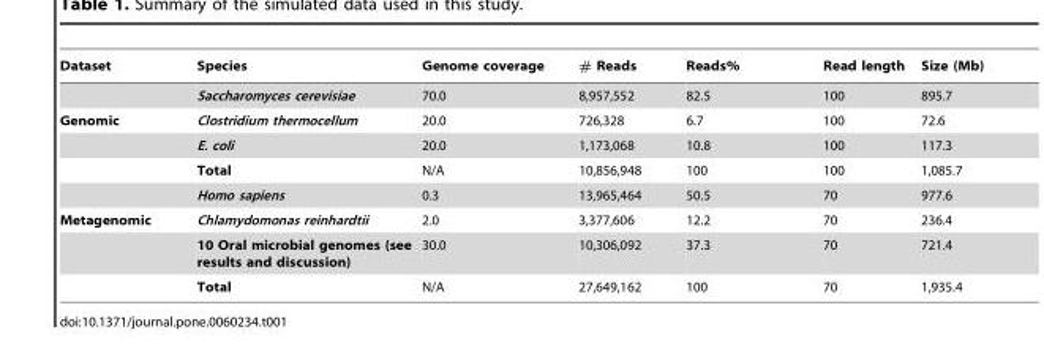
<table><thead><tr><td>Dataset</td><td>Species</td><td>Genome coverage</td><td># Reads</td><td>Reads%</td><td>Read length</td><td>Size (Mb)</td></tr></thead><tbody><tr><td></td><td>Saccharomyces cerevisiae</td><td>70.0</td><td>8,957,552</td><td>82.5</td><td>100</td><td>895.7</td></tr><tr><td rowspan="4">Genomic</td><td>Clostridium thermocellum</td><td>20.0</td><td>726,328</td><td>6.7</td><td>100</td><td>72.6</td></tr><tr><td>E. coli</td><td>20.0</td><td>1,173,068</td><td>10.8</td><td>100</td><td>117.3</td></tr><tr><td>Total</td><td>N/A</td><td>10,856,948</td><td>100</td><td>100</td><td>1,085.7</td></tr><tr><td>Homo sapiens</td><td>0.3</td><td>13,965,464</td><td>50.5</td><td>70</td><td>977.6</td></tr><tr><td rowspan="3">Metagenomic</td><td>Chlamydomonas reinhardtii</td><td>2.0</td><td>3,377,606</td><td>12.2</td><td>70</td><td>236.4</td></tr><tr><td>10 Oral microbial genomes (see results and discussion)</td><td>30.0</td><td>10,306,092</td><td>37.3</td><td>70</td><td>721.4</td></tr><tr><td>Total</td><td>N/A</td><td>27,649,162</td><td>100</td><td>70</td><td>1,935.4</td></tr></tbody></table>